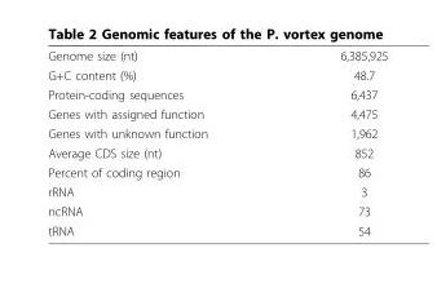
<table><tbody><tr><td>Genome size (nt)</td><td>6,385,925</td></tr><tr><td>G+C content (%)</td><td>48.7</td></tr><tr><td>Protein-coding sequences</td><td>6,437</td></tr><tr><td>Genes with assigned function</td><td>4,475</td></tr><tr><td>Genes with unknown function</td><td>1,962</td></tr><tr><td>Average CDS size (nt)</td><td>852</td></tr><tr><td>Percent of coding region</td><td>86</td></tr><tr><td>rRNA</td><td>3</td></tr><tr><td>ncRNA</td><td>73</td></tr><tr><td>tRNA</td><td>54</td></tr></tbody></table>